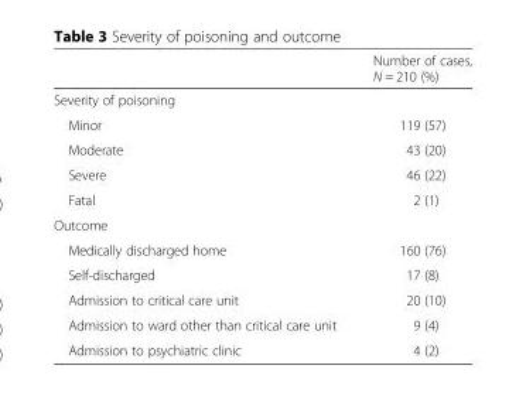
<table><thead><tr><td></td><td>Number of cases, N = 210 (%)</td></tr></thead><tbody><tr><td colspan="2">Severity of poisoning</td></tr><tr><td>Minor</td><td>119 (57)</td></tr><tr><td>Moderate</td><td>43 (20)</td></tr><tr><td>Severe</td><td>46 (22)</td></tr><tr><td>Fatal</td><td>2 (1)</td></tr><tr><td colspan="2">Outcome</td></tr><tr><td>Medically discharged home</td><td>160 (76)</td></tr><tr><td>Self-discharged</td><td>17 (8)</td></tr><tr><td>Admission to critical care unit</td><td>20 (10)</td></tr><tr><td>Admission to ward other than critical care unit</td><td>9 (4)</td></tr><tr><td>Admission to psychiatric clinic</td><td>4 (2)</td></tr></tbody></table>